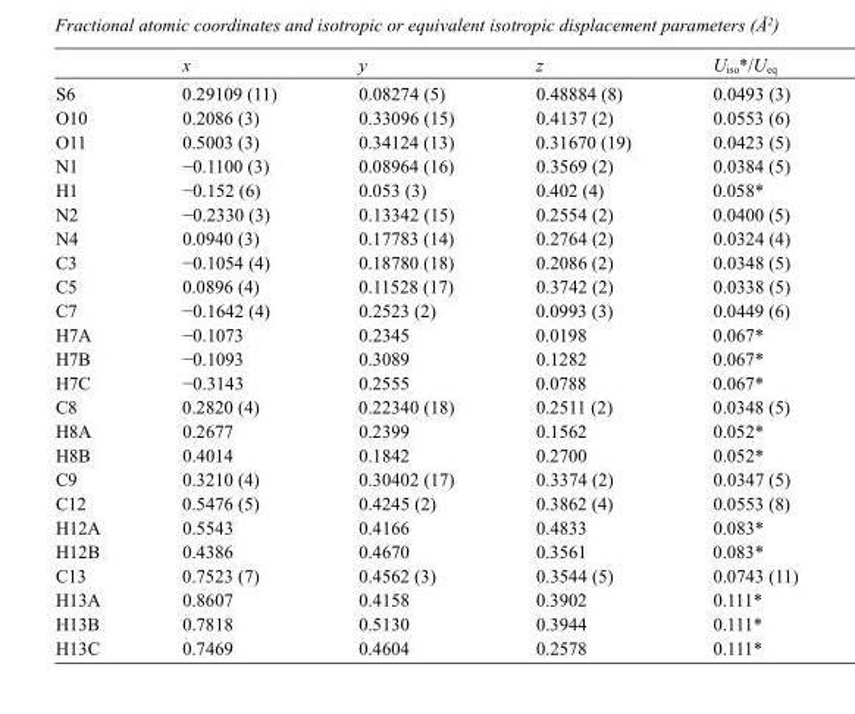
<table><thead><tr><td></td><td>x</td><td>y</td><td>z</td><td>U<sub>iso</sub>*/U<sub>eq</sub></td></tr></thead><tbody><tr><td>S6</td><td>0.29109 (11)</td><td>0.08274 (5)</td><td>0.48884 (8)</td><td>0.0493 (3)</td></tr><tr><td>O10</td><td>0.2086 (3)</td><td>0.33096 (15)</td><td>0.4137 (2)</td><td>0.0553 (6)</td></tr><tr><td>O11</td><td>0.5003 (3)</td><td>0.34124 (13)</td><td>0.31670 (19)</td><td>0.0423 (5)</td></tr><tr><td>N1</td><td>−0.1100 (3)</td><td>0.08964 (16)</td><td>0.3569 (2)</td><td>0.0384 (5)</td></tr><tr><td>H1</td><td>−0.152 (6)</td><td>0.053 (3)</td><td>0.402 (4)</td><td>0.058*</td></tr><tr><td>N2</td><td>−0.2330 (3)</td><td>0.13342 (15)</td><td>0.2554 (2)</td><td>0.0400 (5)</td></tr><tr><td>N4</td><td>0.0940 (3)</td><td>0.17783 (14)</td><td>0.2764 (2)</td><td>0.0324 (4)</td></tr><tr><td>C3</td><td>−0.1054 (4)</td><td>0.18780 (18)</td><td>0.2086 (2)</td><td>0.0348 (5)</td></tr><tr><td>C5</td><td>0.0896 (4)</td><td>0.11528 (17)</td><td>0.3742 (2)</td><td>0.0338 (5)</td></tr><tr><td>C7</td><td>−0.1642 (4)</td><td>0.2523 (2)</td><td>0.0993 (3)</td><td>0.0449 (6)</td></tr><tr><td>H7A</td><td>−0.1073</td><td>0.2345</td><td>0.0198</td><td>0.067*</td></tr><tr><td>H7B</td><td>−0.1093</td><td>0.3089</td><td>0.1282</td><td>0.067*</td></tr><tr><td>H7C</td><td>−0.3143</td><td>0.2555</td><td>0.0788</td><td>0.067*</td></tr><tr><td>C8</td><td>0.2820 (4)</td><td>0.22340 (18)</td><td>0.2511 (2)</td><td>0.0348 (5)</td></tr><tr><td>H8A</td><td>0.2677</td><td>0.2399</td><td>0.1562</td><td>0.052*</td></tr><tr><td>H8B</td><td>0.4014</td><td>0.1842</td><td>0.2700</td><td>0.052*</td></tr><tr><td>C9</td><td>0.3210 (4)</td><td>0.30402 (17)</td><td>0.3374 (2)</td><td>0.0347 (5)</td></tr><tr><td>C12</td><td>0.5476 (5)</td><td>0.4245 (2)</td><td>0.3862 (4)</td><td>0.0553 (8)</td></tr><tr><td>H12A</td><td>0.5543</td><td>0.4166</td><td>0.4833</td><td>0.083*</td></tr><tr><td>H12B</td><td>0.4386</td><td>0.4670</td><td>0.3561</td><td>0.083*</td></tr><tr><td>C13</td><td>0.7523 (7)</td><td>0.4562 (3)</td><td>0.3544 (5)</td><td>0.0743 (11)</td></tr><tr><td>H13A</td><td>0.8607</td><td>0.4158</td><td>0.3902</td><td>0.111*</td></tr><tr><td>H13B</td><td>0.7818</td><td>0.5130</td><td>0.3944</td><td>0.111*</td></tr><tr><td>H13C</td><td>0.7469</td><td>0.4604</td><td>0.2578</td><td>0.111*</td></tr></tbody></table>